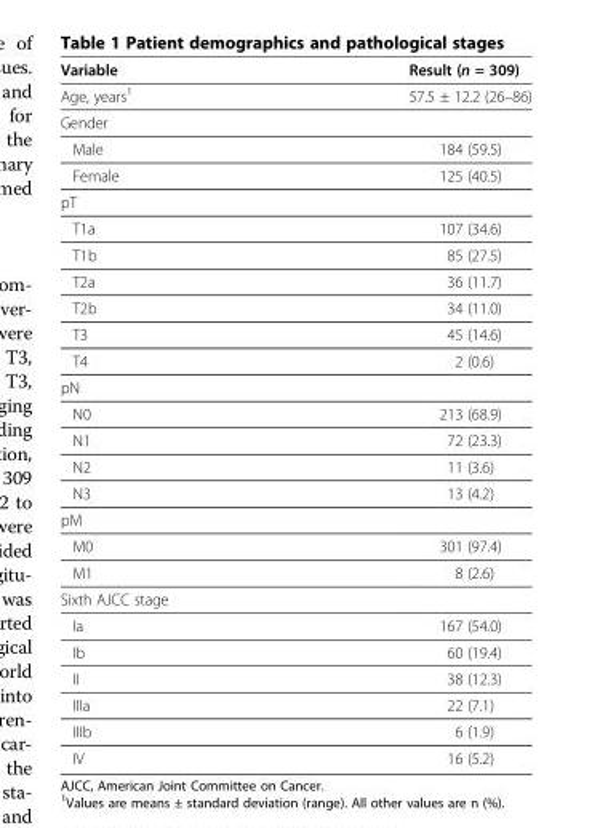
<table><thead><tr><td>Variable</td><td>Result (n = 309)</td></tr></thead><tbody><tr><td>Age, years<sup>1</sup></td><td>57.5 ± 12.2 (26–86)</td></tr><tr><td colspan="2">Gender</td></tr><tr><td>Male</td><td>184 (59.5)</td></tr><tr><td>Female</td><td>125 (40.5)</td></tr><tr><td colspan="2">pT</td></tr><tr><td>T1a</td><td>107 (34.6)</td></tr><tr><td>T1b</td><td>85 (27.5)</td></tr><tr><td>T2a</td><td>36 (11.7)</td></tr><tr><td>T2b</td><td>34 (11.0)</td></tr><tr><td>T3</td><td>45 (14.6)</td></tr><tr><td>T4</td><td>2 (0.6)</td></tr><tr><td colspan="2">pN</td></tr><tr><td>N0</td><td>213 (68.9)</td></tr><tr><td>N1</td><td>72 (23.3)</td></tr><tr><td>N2</td><td>11 (3.6)</td></tr><tr><td>N3</td><td>13 (4.2)</td></tr><tr><td colspan="2">pM</td></tr><tr><td>M0</td><td>301 (97.4)</td></tr><tr><td>M1</td><td>8 (2.6)</td></tr><tr><td colspan="2">Sixth AJCC stage</td></tr><tr><td>Ia</td><td>167 (54.0)</td></tr><tr><td>Ib</td><td>60 (19.4)</td></tr><tr><td>II</td><td>38 (12.3)</td></tr><tr><td>IIIa</td><td>22 (7.1)</td></tr><tr><td>IIIb</td><td>6 (1.9)</td></tr><tr><td>IV</td><td>16 (5.2)</td></tr></tbody></table>